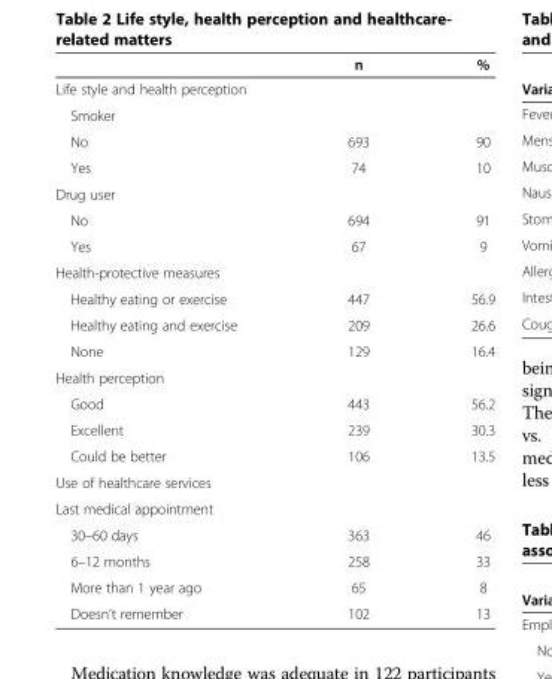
<table><thead><tr><td></td><td>n</td><td>%</td></tr></thead><tbody><tr><td colspan="3">Life style and health perception</td></tr><tr><td colspan="3">Smoker</td></tr><tr><td>No</td><td>693</td><td>90</td></tr><tr><td>Yes</td><td>74</td><td>10</td></tr><tr><td colspan="3">Drug user</td></tr><tr><td>No</td><td>694</td><td>91</td></tr><tr><td>Yes</td><td>67</td><td>9</td></tr><tr><td colspan="3">Health-protective measures</td></tr><tr><td>Healthy eating or exercise</td><td>447</td><td>56.9</td></tr><tr><td>Healthy eating and exercise</td><td>209</td><td>26.6</td></tr><tr><td>None</td><td>129</td><td>16.4</td></tr><tr><td colspan="3">Health perception</td></tr><tr><td>Good</td><td>443</td><td>56.2</td></tr><tr><td>Excellent</td><td>239</td><td>30.3</td></tr><tr><td>Could be better</td><td>106</td><td>13.5</td></tr><tr><td colspan="3">Use of healthcare services</td></tr><tr><td colspan="3">Last medical appointment</td></tr><tr><td>30–60 days</td><td>363</td><td>46</td></tr><tr><td>6–12 months</td><td>258</td><td>33</td></tr><tr><td>More than 1 year ago</td><td>65</td><td>8</td></tr><tr><td>Doesn’t remember</td><td>102</td><td>13</td></tr></tbody></table>